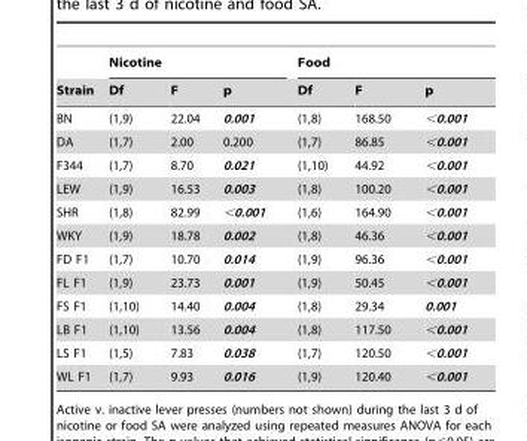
<table><thead><tr><td rowspan="2">Strain</td><td colspan="3">Nicotine</td><td colspan="3">Food</td></tr><tr><td>Df</td><td>F</td><td>p</td><td>Df</td><td>F</td><td>p</td></tr></thead><tbody><tr><td>BN</td><td>(1,9)</td><td>22.04</td><td>0.001</td><td>(1,8)</td><td>168.50</td><td>&lt;0.001</td></tr><tr><td>DA</td><td>(1,7)</td><td>2.00</td><td>0.200</td><td>(1,7)</td><td>86.85</td><td>&lt;0.001</td></tr><tr><td>F344</td><td>(1,7)</td><td>8.70</td><td>0.021</td><td>(1,10)</td><td>44.92</td><td>&lt;0.001</td></tr><tr><td>LEW</td><td>(1,9)</td><td>16.53</td><td>0.003</td><td>(1,8)</td><td>100.20</td><td>&lt;0.001</td></tr><tr><td>SHR</td><td>(1,8)</td><td>82.99</td><td>&lt;0.001</td><td>(1,6)</td><td>164.90</td><td>&lt;0.001</td></tr><tr><td>WKY</td><td>(1,9)</td><td>18.78</td><td>0.002</td><td>(1,8)</td><td>46.36</td><td>&lt;0.001</td></tr><tr><td>FD F1</td><td>(1,7)</td><td>10.70</td><td>0.014</td><td>(1,9)</td><td>96.36</td><td>&lt;0.001</td></tr><tr><td>FL F1</td><td>(1,9)</td><td>23.73</td><td>0.001</td><td>(1,9)</td><td>50.45</td><td>&lt;0.001</td></tr><tr><td>FS F1</td><td>(1,10)</td><td>14.40</td><td>0.004</td><td>(1,8)</td><td>29.34</td><td>0.001</td></tr><tr><td>LB F1</td><td>(1,10)</td><td>13.56</td><td>0.004</td><td>(1,8)</td><td>117.50</td><td>&lt;0.001</td></tr><tr><td>LS F1</td><td>(1,5)</td><td>7.83</td><td>0.038</td><td>(1,7)</td><td>120.50</td><td>&lt;0.001</td></tr><tr><td>WL F1</td><td>(1,7)</td><td>9.93</td><td>0.016</td><td>(1,9)</td><td>120.40</td><td>&lt;0.001</td></tr></tbody></table>